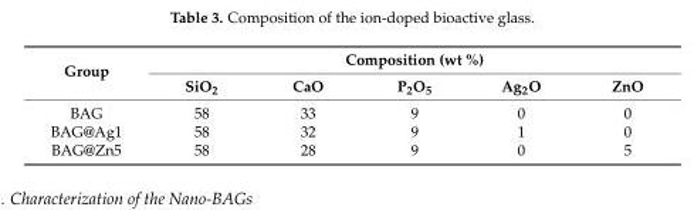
<table><thead><tr><td rowspan="2">Group</td><td colspan="5">Composition (wt %)</td></tr><tr><td>SiO<sub>2</sub></td><td>CaO</td><td>P<sub>2</sub>O<sub>5</sub></td><td>Ag<sub>2</sub>O</td><td>ZnO</td></tr></thead><tbody><tr><td>BAG</td><td>58</td><td>33</td><td>9</td><td>0</td><td>0</td></tr><tr><td>BAG@Ag1</td><td>58</td><td>32</td><td>9</td><td>1</td><td>0</td></tr><tr><td>BAG@Zn5</td><td>58</td><td>28</td><td>9</td><td>0</td><td>5</td></tr></tbody></table>